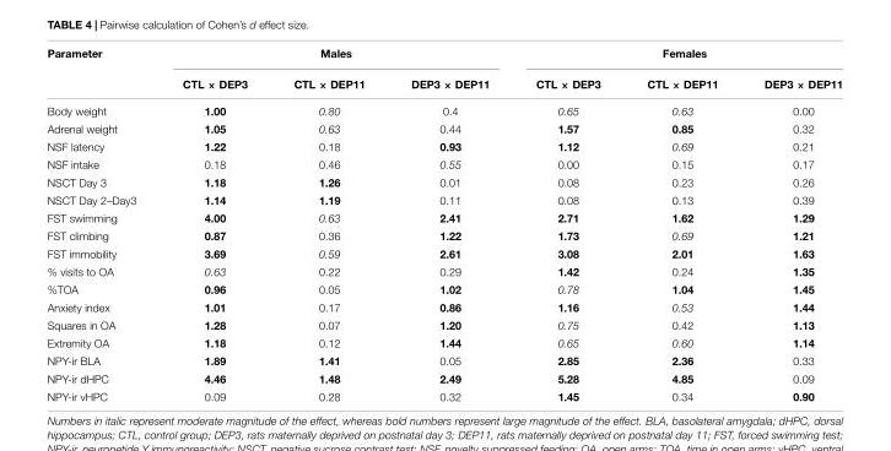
<table><thead><tr><td rowspan="2">Parameter</td><td colspan="3">Males</td><td colspan="3">Females</td></tr><tr><td>CTL × DEP3</td><td>CTL × DEP11</td><td>DEP3 × DEP11</td><td>CTL × DEP3</td><td>CTL × DEP11</td><td>DEP3 × DEP11</td></tr></thead><tbody><tr><td>Body weight</td><td>1.00</td><td>0.80</td><td>0.4</td><td>0.65</td><td>0.63</td><td>0.00</td></tr><tr><td>Adrenal weight</td><td>1.05</td><td>0.63</td><td>0.44</td><td>1.57</td><td>0.85</td><td>0.32</td></tr><tr><td>NSF latency</td><td>1.22</td><td>0.18</td><td>0.93</td><td>1.12</td><td>0.69</td><td>0.21</td></tr><tr><td>NSF intake</td><td>0.18</td><td>0.46</td><td>0.55</td><td>0.00</td><td>0.15</td><td>0.17</td></tr><tr><td>NSCT Day 3</td><td>1.18</td><td>1.26</td><td>0.01</td><td>0.08</td><td>0.23</td><td>0.26</td></tr><tr><td>NSCT Day 2–Day3</td><td>1.14</td><td>1.19</td><td>0.11</td><td>0.08</td><td>0.13</td><td>0.39</td></tr><tr><td>FST swimming</td><td>4.00</td><td>0.63</td><td>2.41</td><td>2.71</td><td>1.62</td><td>1.29</td></tr><tr><td>FST climbing</td><td>0.87</td><td>0.36</td><td>1.22</td><td>1.73</td><td>0.69</td><td>1.21</td></tr><tr><td>FST immobility</td><td>3.69</td><td>0.59</td><td>2.61</td><td>3.08</td><td>2.01</td><td>1.63</td></tr><tr><td>% visits to OA</td><td>0.63</td><td>0.22</td><td>0.29</td><td>1.42</td><td>0.24</td><td>1.35</td></tr><tr><td>%TOA</td><td>0.96</td><td>0.05</td><td>1.02</td><td>0.78</td><td>1.04</td><td>1.45</td></tr><tr><td>Anxiety index</td><td>1.01</td><td>0.17</td><td>0.86</td><td>1.16</td><td>0.53</td><td>1.44</td></tr><tr><td>Squares in OA</td><td>1.28</td><td>0.07</td><td>1.20</td><td>0.75</td><td>0.42</td><td>1.13</td></tr><tr><td>Extremity OA</td><td>1.18</td><td>0.12</td><td>1.44</td><td>0.65</td><td>0.60</td><td>1.14</td></tr><tr><td>NPY-ir BLA</td><td>1.89</td><td>1.41</td><td>0.05</td><td>2.85</td><td>2.36</td><td>0.33</td></tr><tr><td>NPY-ir dHPC</td><td>4.46</td><td>1.48</td><td>2.49</td><td>5.28</td><td>4.85</td><td>0.09</td></tr><tr><td>NPY-ir vHPC</td><td>0.09</td><td>0.28</td><td>0.32</td><td>1.45</td><td>0.34</td><td>0.90</td></tr></tbody></table>